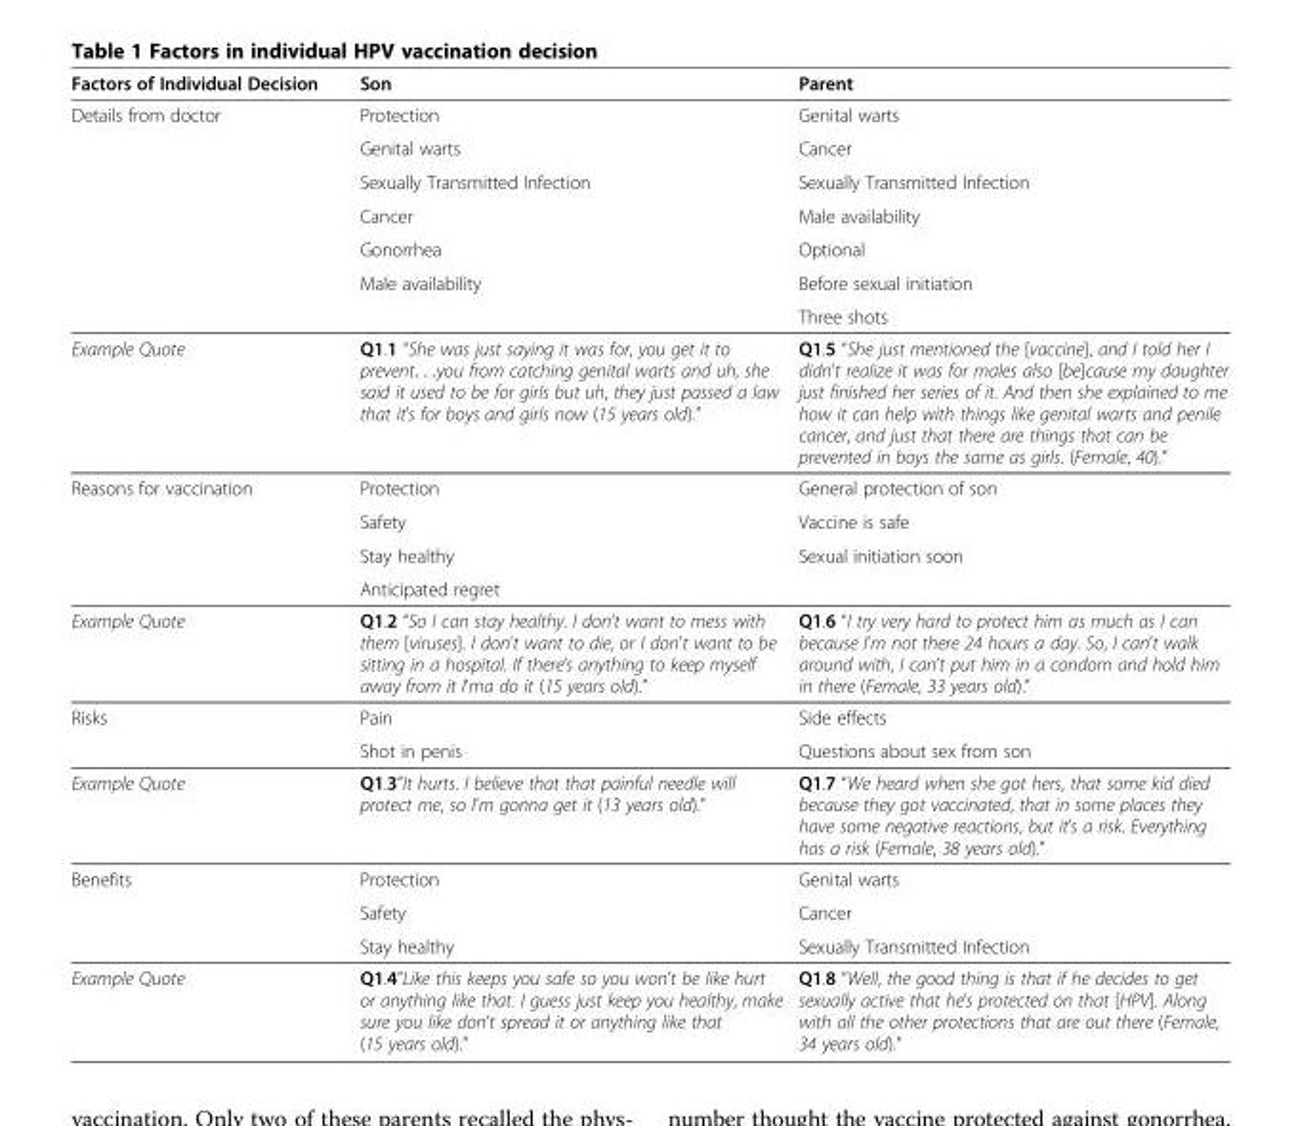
<table><thead><tr><td>Factors of Individual Decision</td><td>Son</td><td>Parent</td></tr></thead><tbody><tr><td rowspan="7">Details from doctor</td><td>Protection</td><td>Genital warts</td></tr><tr><td>Genital warts</td><td>Cancer</td></tr><tr><td>Sexually Transmitted Infection</td><td>Sexually Transmitted Infection</td></tr><tr><td>Cancer</td><td>Male availability</td></tr><tr><td>Gonorrhea</td><td>Optional</td></tr><tr><td>Male availability</td><td>Before sexual initiation</td></tr><tr><td></td><td>Three shots</td></tr><tr><td>Example Quote</td><td>Q1.1 “She was just saying it was for, you get it to prevent. . .you from catching genital warts and uh, she said it used to be for girls but uh, they just passed a law that it’s for boys and girls now (15 years old).”</td><td>Q1.5 “She just mentioned the [vaccine], and I told her I didn’t realize it was for males also [be]cause my daughter just finished her series of it. And then she explained to me how it can help with things like genital warts and penile cancer, and just that there are things that can be prevented in boys the same as girls. (Female, 40).”</td></tr><tr><td rowspan="4">Reasons for vaccination</td><td>Protection</td><td>General protection of son</td></tr><tr><td>Safety</td><td>Vaccine is safe</td></tr><tr><td>Stay healthy</td><td>Sexual initiation soon</td></tr><tr><td>Anticipated regret</td><td></td></tr><tr><td>Example Quote</td><td>Q1.2 “So I can stay healthy. I don’t want to mess with them [viruses]. I don’t want to die, or I don&#x27;t want to be sitting in a hospital. If there’s anything to keep myself away from it I’ma do it (15 years old).”</td><td>Q1.6 “I try very hard to protect him as much as I can because I’m not there 24 hours a day. So, I can’t walk around with, I can’t put him in a condom and hold him in there (Female, 33 years old).”</td></tr><tr><td rowspan="2">Risks</td><td>Pain</td><td>Side effects</td></tr><tr><td>Shot in penis</td><td>Questions about sex from son</td></tr><tr><td>Example Quote</td><td>Q1.3”It hurts. I believe that that painful needle will protect me, so I’m gonna get it (13 years old).”</td><td>Q1.7 “We heard when she got hers, that some kid died because they got vaccinated, that in some places they have some negative reactions, but it’s a risk. Everything has a risk (Female, 38 years old).”</td></tr><tr><td rowspan="3">Benefits</td><td>Protection</td><td>Genital warts</td></tr><tr><td>Safety</td><td>Cancer</td></tr><tr><td>Stay healthy</td><td>Sexually Transmitted Infection</td></tr><tr><td>Example Quote</td><td>Q1.4”Like this keeps you safe so you won’t be like hurt or anything like that. I guess just keep you healthy, make sure you like don’t spread it or anything like that (15 years old).”</td><td>Q1.8 “Well, the good thing is that if he decides to get sexually active that he’s protected on that [HPV]. Along with all the other protections that are out there (Female, 34 years old).”</td></tr></tbody></table>